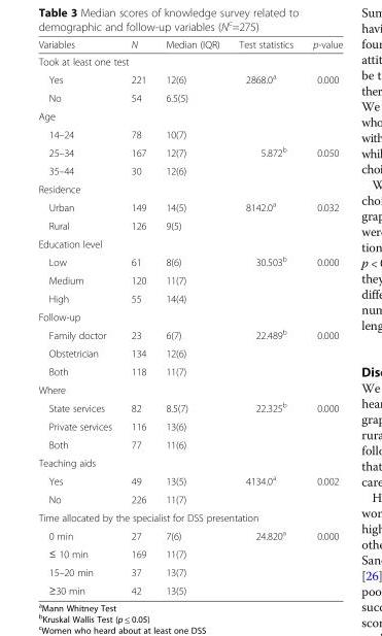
<table><thead><tr><td>Variables</td><td>N</td><td>Median (IQR)</td><td>Test statistics</td><td>p-value</td></tr></thead><tbody><tr><td colspan="5">Took at least one test</td></tr><tr><td>Yes</td><td>221</td><td>12(6)</td><td>2868.0<sup>a</sup></td><td>0.000</td></tr><tr><td>No</td><td>54</td><td>6.5(5)</td><td></td><td></td></tr><tr><td colspan="5">Age</td></tr><tr><td>14–24</td><td>78</td><td>10(7)</td><td></td><td></td></tr><tr><td>25–34</td><td>167</td><td>12(7)</td><td>5.872<sup>b</sup></td><td>0.050</td></tr><tr><td>35–44</td><td>30</td><td>12(6)</td><td></td><td></td></tr><tr><td colspan="5">Residence</td></tr><tr><td>Urban</td><td>149</td><td>14(5)</td><td>8142.0<sup>a</sup></td><td>0.032</td></tr><tr><td>Rural</td><td>126</td><td>9(5)</td><td></td><td></td></tr><tr><td colspan="5">Education level</td></tr><tr><td>Low</td><td>61</td><td>8(6)</td><td>30.503<sup>b</sup></td><td>0.000</td></tr><tr><td>Medium</td><td>120</td><td>11(7)</td><td></td><td></td></tr><tr><td>High</td><td>55</td><td>14(4)</td><td></td><td></td></tr><tr><td colspan="5">Follow-up</td></tr><tr><td>Family doctor</td><td>23</td><td>6(7)</td><td>22.489<sup>b</sup></td><td>0.000</td></tr><tr><td>Obstetrician</td><td>134</td><td>12(6)</td><td></td><td></td></tr><tr><td>Both</td><td>118</td><td>11(7)</td><td></td><td></td></tr><tr><td colspan="5">Where</td></tr><tr><td>State services</td><td>82</td><td>8.5(7)</td><td>22.325<sup>b</sup></td><td>0.000</td></tr><tr><td>Private services</td><td>116</td><td>13(6)</td><td></td><td></td></tr><tr><td>Both</td><td>77</td><td>11(6)</td><td></td><td></td></tr><tr><td colspan="5">Teaching aids</td></tr><tr><td>Yes</td><td>49</td><td>13(5)</td><td>4134.0<sup>a</sup></td><td>0.002</td></tr><tr><td>No</td><td>226</td><td>11(7)</td><td></td><td></td></tr><tr><td colspan="5">Time allocated by the specialist for DSS presentation</td></tr><tr><td>0 min</td><td>27</td><td>7(6)</td><td>24.820<sup>a</sup></td><td>0.000</td></tr><tr><td>≤ 10 min</td><td>169</td><td>11(7)</td><td></td><td></td></tr><tr><td>15–20 min</td><td>37</td><td>13(7)</td><td></td><td></td></tr><tr><td>≥30 min</td><td>42</td><td>13(5)</td><td></td><td></td></tr></tbody></table>